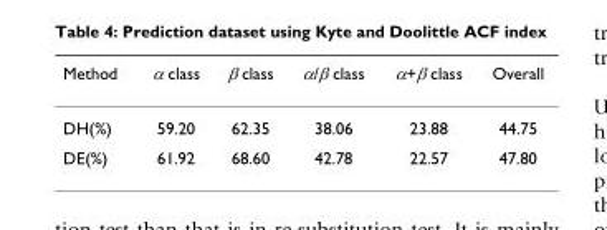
<table><thead><tr><td>Method</td><td>α class</td><td>β class</td><td>α/β class</td><td>α+β class</td><td>Overall</td></tr></thead><tbody><tr><td>DH(%)</td><td>59.20</td><td>62.35</td><td>38.06</td><td>23.88</td><td>44.75</td></tr><tr><td>DE(%)</td><td>61.92</td><td>68.60</td><td>42.78</td><td>22.57</td><td>47.80</td></tr></tbody></table>